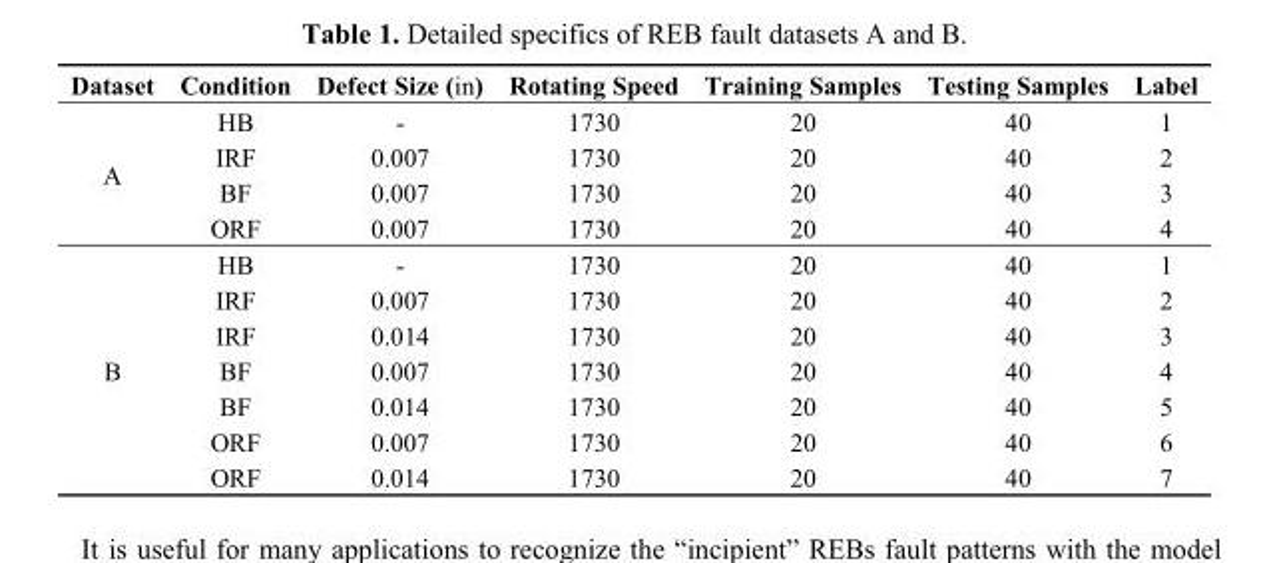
<table><thead><tr><td>Dataset</td><td>Condition</td><td>Defect Size (in)</td><td>Rotating Speed</td><td>Training Samples</td><td>Testing Samples</td><td>Label</td></tr></thead><tbody><tr><td rowspan="4">A</td><td>HB</td><td>-</td><td>1730</td><td>20</td><td>40</td><td>1</td></tr><tr><td>IRF</td><td>0.007</td><td>1730</td><td>20</td><td>40</td><td>2</td></tr><tr><td>BF</td><td>0.007</td><td>1730</td><td>20</td><td>40</td><td>3</td></tr><tr><td>ORF</td><td>0.007</td><td>1730</td><td>20</td><td>40</td><td>4</td></tr><tr><td rowspan="7">B</td><td>HB</td><td>-</td><td>1730</td><td>20</td><td>40</td><td>1</td></tr><tr><td>IRF</td><td>0.007</td><td>1730</td><td>20</td><td>40</td><td>2</td></tr><tr><td>IRF</td><td>0.014</td><td>1730</td><td>20</td><td>40</td><td>3</td></tr><tr><td>BF</td><td>0.007</td><td>1730</td><td>20</td><td>40</td><td>4</td></tr><tr><td>BF</td><td>0.014</td><td>1730</td><td>20</td><td>40</td><td>5</td></tr><tr><td>ORF</td><td>0.007</td><td>1730</td><td>20</td><td>40</td><td>6</td></tr><tr><td>ORF</td><td>0.014</td><td>1730</td><td>20</td><td>40</td><td>7</td></tr></tbody></table>